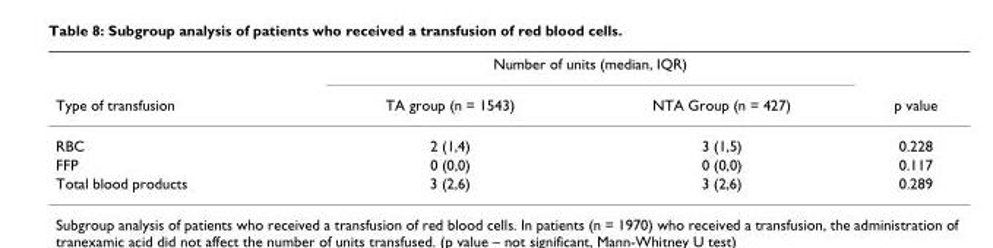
<table><thead><tr><td rowspan="2">Type of transfusion</td><td colspan="2">Number of units (median, IQR)</td><td rowspan="2">p value</td></tr><tr><td>TA group (n = 1543)</td><td>NTA Group (n = 427)</td></tr></thead><tbody><tr><td>RBC</td><td>2 (1,4)</td><td>3 (1,5)</td><td>0.228</td></tr><tr><td>FFP</td><td>0 (0,0)</td><td>0 (0,0)</td><td>0.117</td></tr><tr><td>Total blood products</td><td>3 (2,6)</td><td>3 (2,6)</td><td>0.289</td></tr></tbody></table>